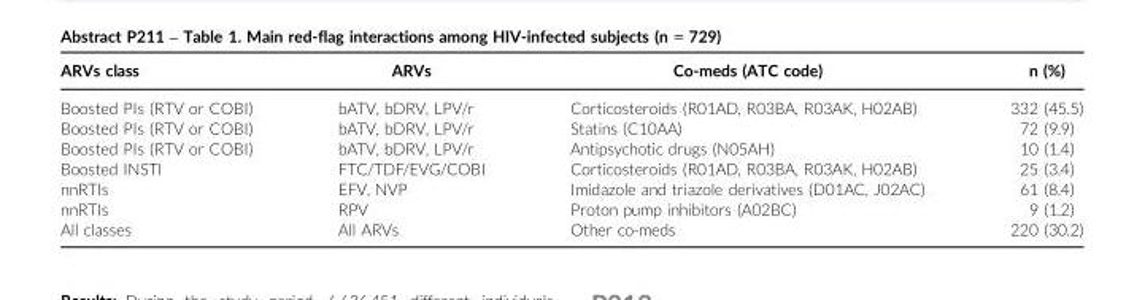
<table><thead><tr><td>ARVs class</td><td>ARVs</td><td>Co-meds (ATC code)</td><td>n (%)</td></tr></thead><tbody><tr><td>Boosted PIs (RTV or COBI)</td><td>bATV, bDRV, LPV/r</td><td>Corticosteroids (R01AD, R03BA, R03AK, H02AB)</td><td>332 (45.5)</td></tr><tr><td>Boosted PIs (RTV or COBI)</td><td>bATV, bDRV, LPV/r</td><td>Statins (C10AA)</td><td>72 (9.9)</td></tr><tr><td>Boosted PIs (RTV or COBI)</td><td>bATV, bDRV, LPV/r</td><td>Antipsychotic drugs (N05AH)</td><td>10 (1.4)</td></tr><tr><td>Boosted INSTI</td><td>FTC/TDF/EVG/COBI</td><td>Corticosteroids (R01AD, R03BA, R03AK, H02AB)</td><td>25 (3.4)</td></tr><tr><td>nnRTIs</td><td>EFV, NVP</td><td>Imidazole and triazole derivatives (D01AC, J02AC)</td><td>61 (8.4)</td></tr><tr><td>nnRTIs</td><td>RPV</td><td>Proton pump inhibitors (A02BC)</td><td>9 (1.2)</td></tr><tr><td>All classes</td><td>All ARVs</td><td>Other co-meds</td><td>220 (30.2)</td></tr></tbody></table>